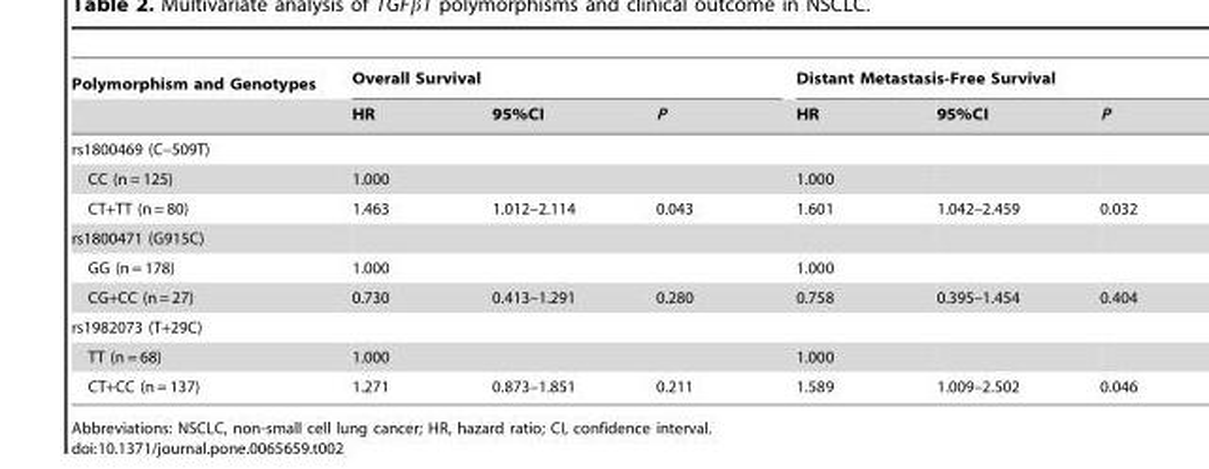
<table><thead><tr><td rowspan="2">Polymorphism and Genotypes</td><td colspan="3">Overall Survival</td><td colspan="3">Distant Metastasis-Free Survival</td></tr><tr><td>HR</td><td>95%CI</td><td>P</td><td>HR</td><td>95%CI</td><td>P</td></tr></thead><tbody><tr><td colspan="7">rs1800469 (C–509T)</td></tr><tr><td>CC (n = 125)</td><td>1.000</td><td></td><td></td><td>1.000</td><td></td><td></td></tr><tr><td>CT+TT (n = 80)</td><td>1.463</td><td>1.012–2.114</td><td>0.043</td><td>1.601</td><td>1.042–2.459</td><td>0.032</td></tr><tr><td colspan="7">rs1800471 (G915C)</td></tr><tr><td>GG (n = 178)</td><td>1.000</td><td></td><td></td><td>1.000</td><td></td><td></td></tr><tr><td>CG+CC (n = 27)</td><td>0.730</td><td>0.413–1.291</td><td>0.280</td><td>0.758</td><td>0.395–1.454</td><td>0.404</td></tr><tr><td colspan="7">rs1982073 (T+29C)</td></tr><tr><td>TT (n = 68)</td><td>1.000</td><td></td><td></td><td>1.000</td><td></td><td></td></tr><tr><td>CT+CC (n = 137)</td><td>1.271</td><td>0.873–1.851</td><td>0.211</td><td>1.589</td><td>1.009–2.502</td><td>0.046</td></tr></tbody></table>